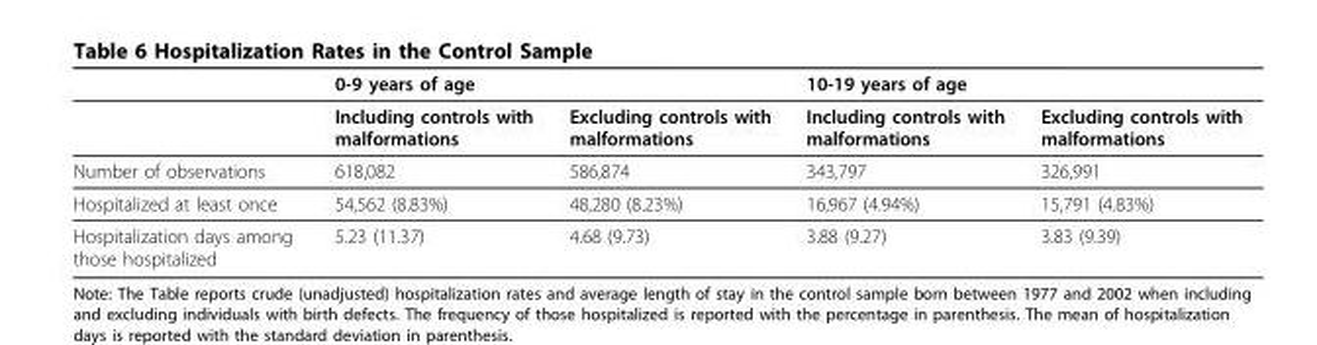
<table><thead><tr><td rowspan="2"></td><td colspan="2">0-9 years of age</td><td colspan="2">10-19 years of age</td></tr><tr><td>Including controls with malformations</td><td>Excluding controls with malformations</td><td>Including controls with malformations</td><td>Excluding controls with malformations</td></tr></thead><tbody><tr><td>Number of observations</td><td>618,082</td><td>586,874</td><td>343,797</td><td>326,991</td></tr><tr><td>Hospitalized at least once</td><td>54,562 (8.83%)</td><td>48,280 (8.23%)</td><td>16,967 (4.94%)</td><td>15,791 (4.83%)</td></tr><tr><td>Hospitalization days among those hospitalized</td><td>5.23 (11.37)</td><td>4.68 (9.73)</td><td>3.88 (9.27)</td><td>3.83 (9.39)</td></tr></tbody></table>